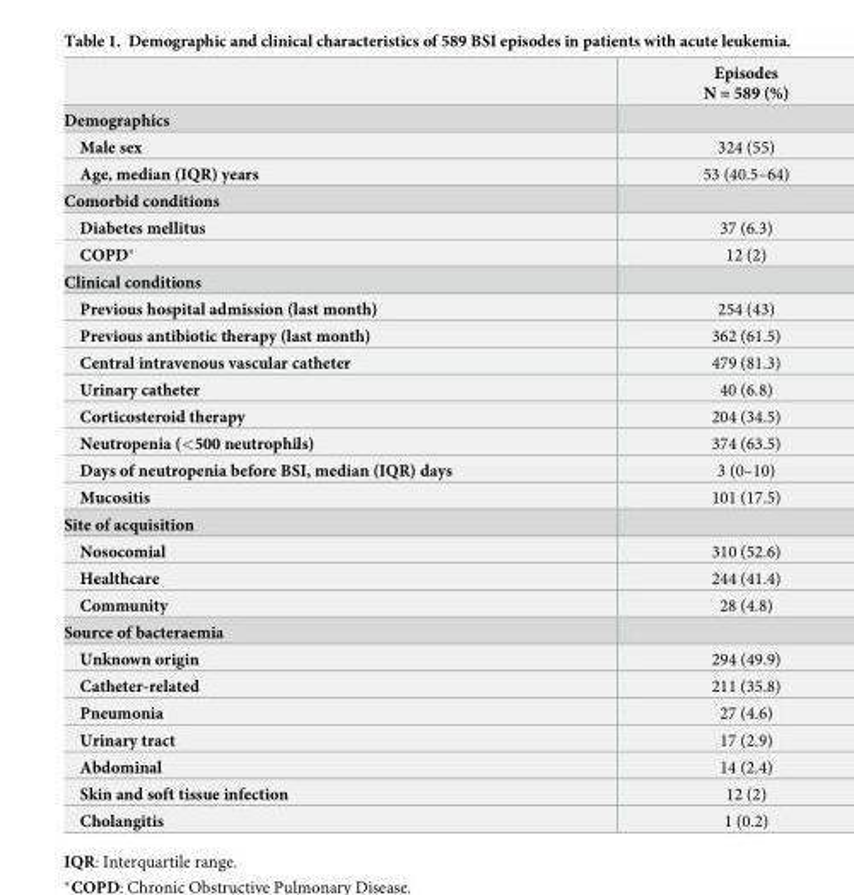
<table><thead><tr><td></td><td>Episodes N = 589 (%)</td></tr></thead><tbody><tr><td colspan="2">Demographics</td></tr><tr><td>Male sex</td><td>324 (55)</td></tr><tr><td>Age, median (IQR) years</td><td>53 (40.5–64)</td></tr><tr><td colspan="2">Comorbid conditions</td></tr><tr><td>Diabetes mellitus</td><td>37 (6.3)</td></tr><tr><td>COPD*</td><td>12 (2)</td></tr><tr><td colspan="2">Clinical conditions</td></tr><tr><td>Previous hospital admission (last month)</td><td>254 (43)</td></tr><tr><td>Previous antibiotic therapy (last month)</td><td>362 (61.5)</td></tr><tr><td>Central intravenous vascular catheter</td><td>479 (81.3)</td></tr><tr><td>Urinary catheter</td><td>40 (6.8)</td></tr><tr><td>Corticosteroid therapy</td><td>204 (34.5)</td></tr><tr><td>Neutropenia (&lt;500 neutrophils)</td><td>374 (63.5)</td></tr><tr><td>Days of neutropenia before BSI, median (IQR) days</td><td>3 (0–10)</td></tr><tr><td>Mucositis</td><td>101 (17.5)</td></tr><tr><td colspan="2">Site of acquisition</td></tr><tr><td>Nosocomial</td><td>310 (52.6)</td></tr><tr><td>Healthcare</td><td>244 (41.4)</td></tr><tr><td>Community</td><td>28 (4.8)</td></tr><tr><td colspan="2">Source of bacteraemia</td></tr><tr><td>Unknown origin</td><td>294 (49.9)</td></tr><tr><td>Catheter-related</td><td>211 (35.8)</td></tr><tr><td>Pneumonia</td><td>27 (4.6)</td></tr><tr><td>Urinary tract</td><td>17 (2.9)</td></tr><tr><td>Abdominal</td><td>14 (2.4)</td></tr><tr><td>Skin and soft tissue infection</td><td>12 (2)</td></tr><tr><td>Cholangitis</td><td>1 (0.2)</td></tr></tbody></table>